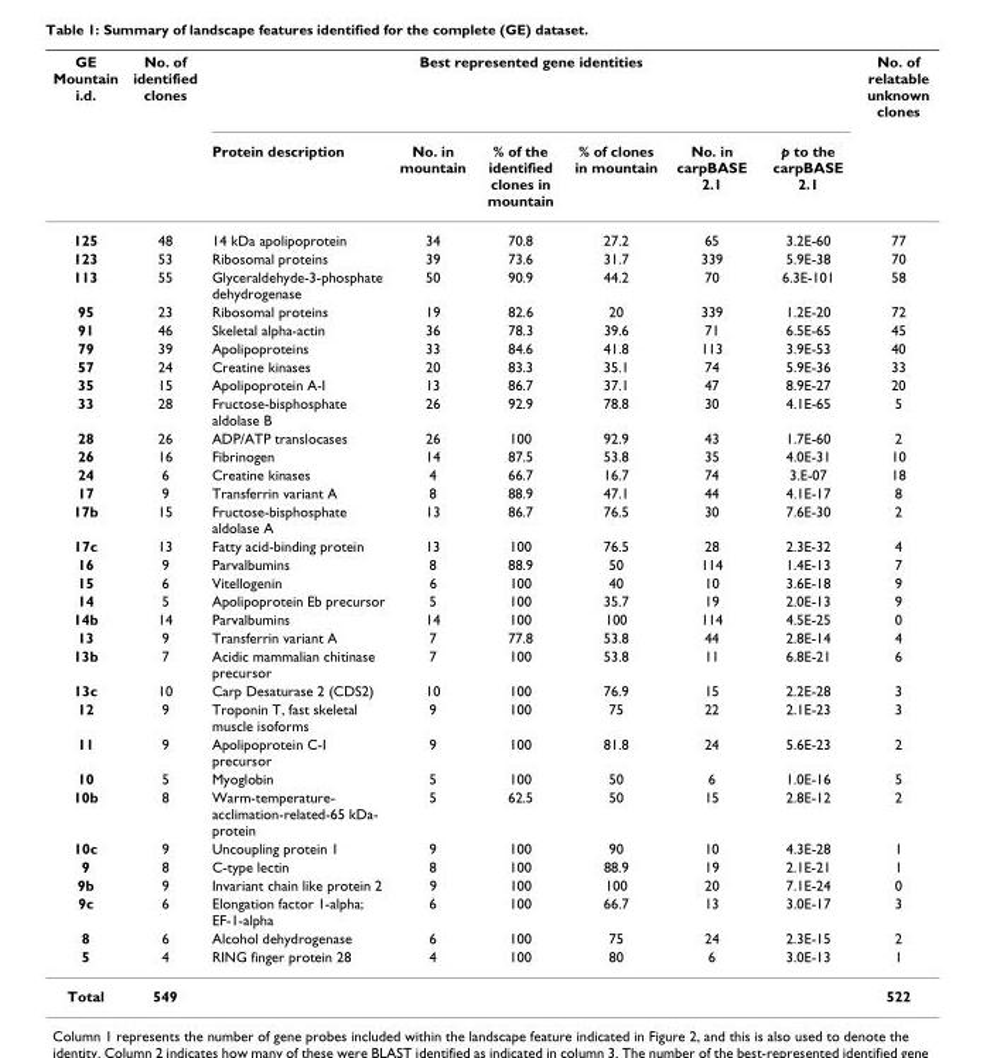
<table><thead><tr><td rowspan="2">GE Mountain i.d.</td><td rowspan="2">No. of identified clones</td><td colspan="6">Best represented gene identities</td><td rowspan="2">No. of relatable unknown clones</td></tr><tr><td>Protein description</td><td>No. in mountain</td><td>% of the identified clones in mountain</td><td>% of clones in mountain</td><td>No. in carpBASE 2.1</td><td>p to the carpBASE 2.1</td></tr></thead><tbody><tr><td>125</td><td>48</td><td>14 kDa apolipoprotein</td><td>34</td><td>70.8</td><td>27.2</td><td>65</td><td>3.2E-60</td><td>77</td></tr><tr><td>123</td><td>53</td><td>Ribosomal proteins</td><td>39</td><td>73.6</td><td>31.7</td><td>339</td><td>5.9E-38</td><td>70</td></tr><tr><td>113</td><td>55</td><td>Glyceraldehyde-3-phosphate dehydrogenase</td><td>50</td><td>90.9</td><td>44.2</td><td>70</td><td>6.3E-101</td><td>58</td></tr><tr><td>95</td><td>23</td><td>Ribosomal proteins</td><td>19</td><td>82.6</td><td>20</td><td>339</td><td>1.2E-20</td><td>72</td></tr><tr><td>91</td><td>46</td><td>Skeletal alpha-actin</td><td>36</td><td>78.3</td><td>39.6</td><td>71</td><td>6.5E-65</td><td>45</td></tr><tr><td>79</td><td>39</td><td>Apolipoproteins</td><td>33</td><td>84.6</td><td>41.8</td><td>113</td><td>3.9E-53</td><td>40</td></tr><tr><td>57</td><td>24</td><td>Creatine kinases</td><td>20</td><td>83.3</td><td>35.1</td><td>74</td><td>5.9E-36</td><td>33</td></tr><tr><td>35</td><td>15</td><td>Apolipoprotein A-I</td><td>13</td><td>86.7</td><td>37.1</td><td>47</td><td>8.9E-27</td><td>20</td></tr><tr><td>33</td><td>28</td><td>Fructose-bisphosphate aldolase B</td><td>26</td><td>92.9</td><td>78.8</td><td>30</td><td>4.1E-65</td><td>5</td></tr><tr><td>28</td><td>26</td><td>ADP/ATP translocases</td><td>26</td><td>100</td><td>92.9</td><td>43</td><td>1.7E-60</td><td>2</td></tr><tr><td>26</td><td>16</td><td>Fibrinogen</td><td>14</td><td>87.5</td><td>53.8</td><td>35</td><td>4.0E-31</td><td>10</td></tr><tr><td>24</td><td>6</td><td>Creatine kinases</td><td>4</td><td>66.7</td><td>16.7</td><td>74</td><td>3.E-07</td><td>18</td></tr><tr><td>17</td><td>9</td><td>Transferrin variant A</td><td>8</td><td>88.9</td><td>47.1</td><td>44</td><td>4.1E-17</td><td>8</td></tr><tr><td>17b</td><td>15</td><td>Fructose-bisphosphate aldolase A</td><td>13</td><td>86.7</td><td>76.5</td><td>30</td><td>7.6E-30</td><td>2</td></tr><tr><td>17c</td><td>13</td><td>Fatty acid-binding protein</td><td>13</td><td>100</td><td>76.5</td><td>28</td><td>2.3E-32</td><td>4</td></tr><tr><td>16</td><td>9</td><td>Parvalbumins</td><td>8</td><td>88.9</td><td>50</td><td>114</td><td>1.4E-13</td><td>7</td></tr><tr><td>15</td><td>6</td><td>Vitellogenin</td><td>6</td><td>100</td><td>40</td><td>10</td><td>3.6E-18</td><td>9</td></tr><tr><td>14</td><td>5</td><td>Apolipoprotein Eb precursor</td><td>5</td><td>100</td><td>35.7</td><td>19</td><td>2.0E-13</td><td>9</td></tr><tr><td>14b</td><td>14</td><td>Parvalbumins</td><td>14</td><td>100</td><td>100</td><td>114</td><td>4.5E-25</td><td>0</td></tr><tr><td>13</td><td>9</td><td>Transferrin variant A</td><td>7</td><td>77.8</td><td>53.8</td><td>44</td><td>2.8E-14</td><td>4</td></tr><tr><td>13b</td><td>7</td><td>Acidic mammalian chitinase precursor</td><td>7</td><td>100</td><td>53.8</td><td>11</td><td>6.8E-21</td><td>6</td></tr><tr><td>13c</td><td>10</td><td>Carp Desaturase 2 (CDS2)</td><td>10</td><td>100</td><td>76.9</td><td>15</td><td>2.2E-28</td><td>3</td></tr><tr><td>12</td><td>9</td><td>Troponin T, fast skeletal muscle isoforms</td><td>9</td><td>100</td><td>75</td><td>22</td><td>2.1E-23</td><td>3</td></tr><tr><td>11</td><td>9</td><td>Apolipoprotein C-I precursor</td><td>9</td><td>100</td><td>81.8</td><td>24</td><td>5.6E-23</td><td>2</td></tr><tr><td>10</td><td>5</td><td>Myoglobin</td><td>5</td><td>100</td><td>50</td><td>6</td><td>1.0E-16</td><td>5</td></tr><tr><td>10b</td><td>8</td><td>Warm-temperature- acclimation-related-65 kDa- protein</td><td>5</td><td>62.5</td><td>50</td><td>15</td><td>2.8E-12</td><td>2</td></tr><tr><td>10c</td><td>9</td><td>Uncoupling protein 1</td><td>9</td><td>100</td><td>90</td><td>10</td><td>4.3E-28</td><td>1</td></tr><tr><td>9</td><td>8</td><td>C-type lectin</td><td>8</td><td>100</td><td>88.9</td><td>19</td><td>2.1E-21</td><td>1</td></tr><tr><td>9b</td><td>9</td><td>Invariant chain like protein 2</td><td>9</td><td>100</td><td>100</td><td>20</td><td>7.1E-24</td><td>0</td></tr><tr><td>9c</td><td>6</td><td>Elongation factor 1-alpha; EF-1-alpha</td><td>6</td><td>100</td><td>66.7</td><td>13</td><td>3.0E-17</td><td>3</td></tr><tr><td>8</td><td>6</td><td>Alcohol dehydrogenase</td><td>6</td><td>100</td><td>75</td><td>24</td><td>2.3E-15</td><td>2</td></tr><tr><td>5</td><td>4</td><td>RING finger protein 28</td><td>4</td><td>100</td><td>80</td><td>6</td><td>3.0E-13</td><td>1</td></tr><tr><td>Total</td><td>549</td><td></td><td></td><td></td><td></td><td></td><td></td><td>522</td></tr></tbody></table>